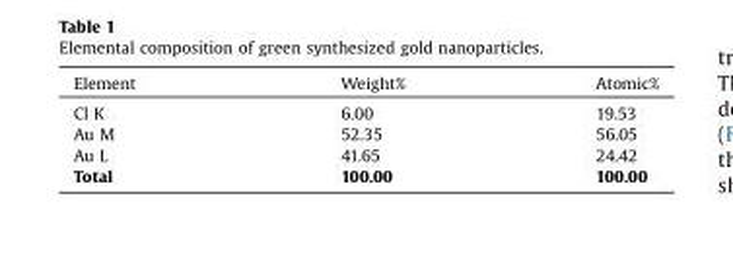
<table><thead><tr><td>Element</td><td>Weight%</td><td>Atomic%</td></tr></thead><tbody><tr><td>Cl K</td><td>6.00</td><td>19.53</td></tr><tr><td>Au M</td><td>52.35</td><td>56.05</td></tr><tr><td>Au L</td><td>41.65</td><td>24.42</td></tr><tr><td>Total</td><td>100.00</td><td>100.00</td></tr></tbody></table>